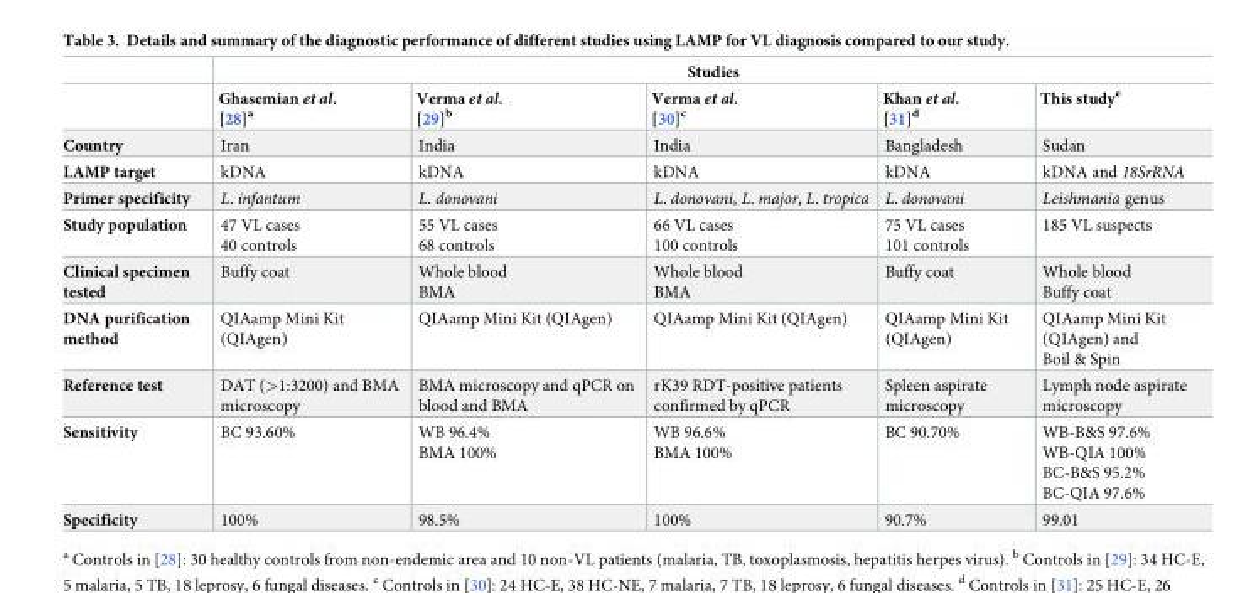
<table><thead><tr><td rowspan="2"></td><td colspan="5">Studies</td></tr><tr><td>Ghasemian et al. [28]<sup>a</sup></td><td>Verma et al. [29]<sup>b</sup></td><td>Verma et al. [30]<sup>c</sup></td><td>Khan et al. [31]<sup>d</sup></td><td>This study<sup>e</sup></td></tr></thead><tbody><tr><td>Country</td><td>Iran</td><td>India</td><td>India</td><td>Bangladesh</td><td>Sudan</td></tr><tr><td>LAMP target</td><td>kDNA</td><td>kDNA</td><td>kDNA</td><td>kDNA</td><td>kDNA and 18SrRNA</td></tr><tr><td>Primer specificity</td><td>L. infantum</td><td>L. donovani</td><td>L. donovani, L. major, L. tropica</td><td>L. donovani</td><td>Leishmania genus</td></tr><tr><td>Study population</td><td>47 VL cases 40 controls</td><td>55 VL cases 68 controls</td><td>66 VL cases 100 controls</td><td>75 VL cases 101 controls</td><td>185 VL suspects</td></tr><tr><td>Clinical specimen tested</td><td>Buffy coat</td><td>Whole blood BMA</td><td>Whole blood BMA</td><td>Buffy coat</td><td>Whole blood Buffy coat</td></tr><tr><td>DNA purification method</td><td>QIAamp Mini Kit (QIAgen)</td><td>QIAamp Mini Kit (QIAgen)</td><td>QIAamp Mini Kit (QIAgen)</td><td>QIAamp Mini Kit (QIAgen)</td><td>QIAamp Mini Kit (QIAgen) and Boil &amp; Spin</td></tr><tr><td>Reference test</td><td>DAT (&gt;1:3200) and BMA microscopy</td><td>BMA microscopy and qPCR on blood and BMA</td><td>rK39 RDT-positive patients confirmed by qPCR</td><td>Spleen aspirate microscopy</td><td>Lymph node aspirate microscopy</td></tr><tr><td>Sensitivity</td><td>BC 93.60%</td><td>WB 96.4% BMA 100%</td><td>WB 96.6% BMA 100%</td><td>BC 90.70%</td><td>WB-B&amp;S 97.6% WB-QIA 100% BC-B&amp;S 95.2% BC-QIA 97.6%</td></tr><tr><td>Specificity</td><td>100%</td><td>98.5%</td><td>100%</td><td>90.7%</td><td>99.01</td></tr></tbody></table>